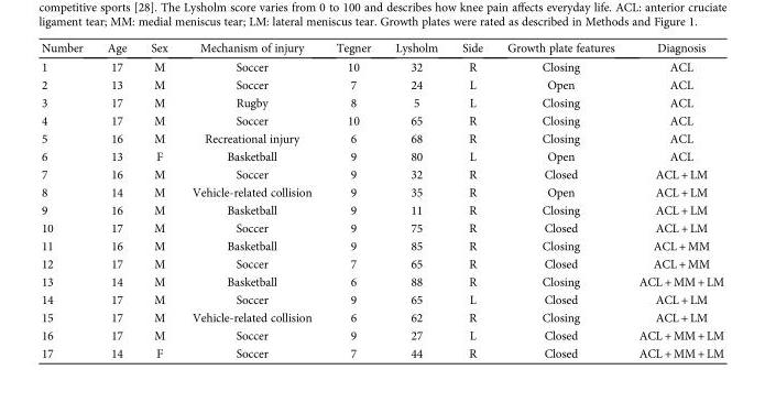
<table><thead><tr><td>Number</td><td>Age</td><td>Sex</td><td>Mechanism of injury</td><td>Tegner</td><td>Lysholm</td><td>Side</td><td>Growth plate features</td><td>Diagnosis</td></tr></thead><tbody><tr><td>1</td><td>17</td><td>M</td><td>Soccer</td><td>10</td><td>32</td><td>R</td><td>Closing</td><td>ACL</td></tr><tr><td>2</td><td>13</td><td>M</td><td>Soccer</td><td>7</td><td>24</td><td>L</td><td>Open</td><td>ACL</td></tr><tr><td>3</td><td>17</td><td>M</td><td>Rugby</td><td>8</td><td>5</td><td>L</td><td>Closing</td><td>ACL</td></tr><tr><td>4</td><td>17</td><td>M</td><td>Soccer</td><td>10</td><td>65</td><td>R</td><td>Closing</td><td>ACL</td></tr><tr><td>5</td><td>16</td><td>M</td><td>Recreational injury</td><td>6</td><td>68</td><td>R</td><td>Closing</td><td>ACL</td></tr><tr><td>6</td><td>13</td><td>F</td><td>Basketball</td><td>9</td><td>80</td><td>L</td><td>Open</td><td>ACL</td></tr><tr><td>7</td><td>16</td><td>M</td><td>Soccer</td><td>9</td><td>32</td><td>R</td><td>Closed</td><td>ACL + LM</td></tr><tr><td>8</td><td>14</td><td>M</td><td>Vehicle-related collision</td><td>9</td><td>35</td><td>R</td><td>Open</td><td>ACL + LM</td></tr><tr><td>9</td><td>16</td><td>M</td><td>Basketball</td><td>9</td><td>11</td><td>R</td><td>Closing</td><td>ACL + LM</td></tr><tr><td>10</td><td>17</td><td>M</td><td>Soccer</td><td>9</td><td>75</td><td>R</td><td>Closed</td><td>ACL + LM</td></tr><tr><td>11</td><td>16</td><td>M</td><td>Basketball</td><td>9</td><td>85</td><td>R</td><td>Closing</td><td>ACL + MM</td></tr><tr><td>12</td><td>17</td><td>M</td><td>Soccer</td><td>7</td><td>65</td><td>R</td><td>Closed</td><td>ACL + MM</td></tr><tr><td>13</td><td>14</td><td>M</td><td>Basketball</td><td>6</td><td>88</td><td>R</td><td>Closing</td><td>ACL + MM + LM</td></tr><tr><td>14</td><td>17</td><td>M</td><td>Soccer</td><td>9</td><td>65</td><td>L</td><td>Closed</td><td>ACL + LM</td></tr><tr><td>15</td><td>17</td><td>M</td><td>Vehicle-related collision</td><td>6</td><td>62</td><td>R</td><td>Closing</td><td>ACL + LM</td></tr><tr><td>16</td><td>17</td><td>M</td><td>Soccer</td><td>9</td><td>27</td><td>L</td><td>Closed</td><td>ACL + MM + LM</td></tr><tr><td>17</td><td>14</td><td>F</td><td>Soccer</td><td>7</td><td>44</td><td>R</td><td>Closed</td><td>ACL + MM + LM</td></tr></tbody></table>